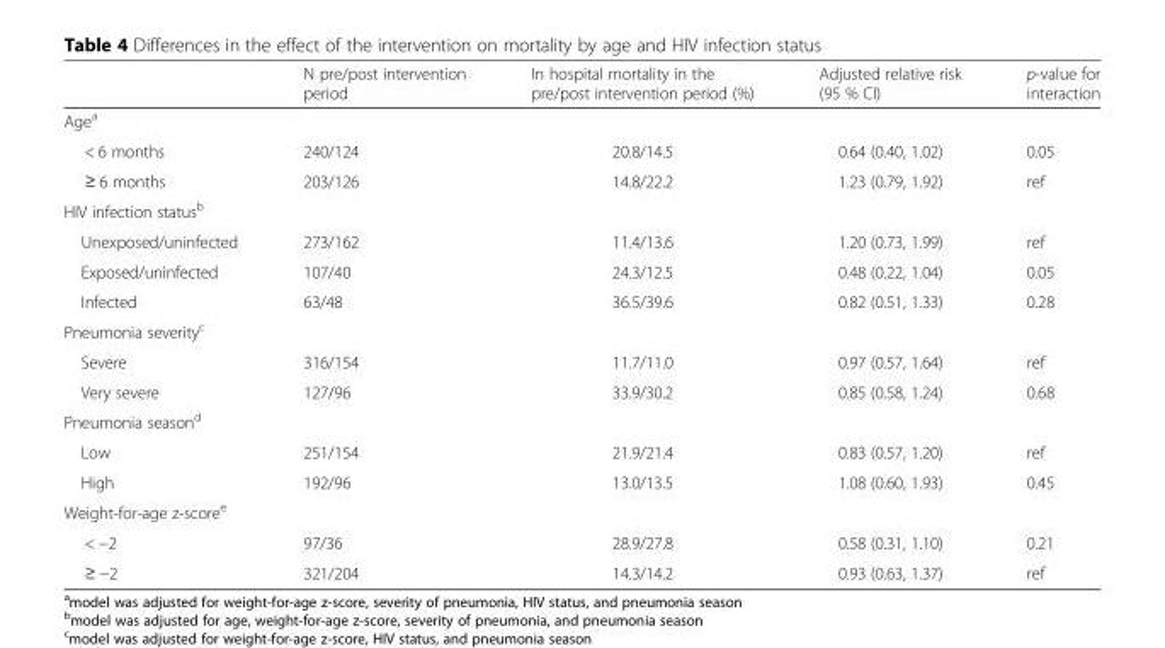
<table><thead><tr><td></td><td>N pre/post intervention period</td><td>In hospital mortality in the pre/post intervention period (%)</td><td>Adjusted relative risk (95 % CI)</td><td>p-value for interaction</td></tr></thead><tbody><tr><td colspan="5">Age<sup>a</sup></td></tr><tr><td>&lt; 6 months</td><td>240/124</td><td>20.8/14.5</td><td>0.64 (0.40, 1.02)</td><td>0.05</td></tr><tr><td>≥ 6 months</td><td>203/126</td><td>14.8/22.2</td><td>1.23 (0.79, 1.92)</td><td>ref</td></tr><tr><td colspan="5">HIV infection status<sup>b</sup></td></tr><tr><td>Unexposed/uninfected</td><td>273/162</td><td>11.4/13.6</td><td>1.20 (0.73, 1.99)</td><td>ref</td></tr><tr><td>Exposed/uninfected</td><td>107/40</td><td>24.3/12.5</td><td>0.48 (0.22, 1.04)</td><td>0.05</td></tr><tr><td>Infected</td><td>63/48</td><td>36.5/39.6</td><td>0.82 (0.51, 1.33)</td><td>0.28</td></tr><tr><td colspan="5">Pneumonia severity<sup>c</sup></td></tr><tr><td>Severe</td><td>316/154</td><td>11.7/11.0</td><td>0.97 (0.57, 1.64)</td><td>ref</td></tr><tr><td>Very severe</td><td>127/96</td><td>33.9/30.2</td><td>0.85 (0.58, 1.24)</td><td>0.68</td></tr><tr><td colspan="5">Pneumonia season<sup>d</sup></td></tr><tr><td>Low</td><td>251/154</td><td>21.9/21.4</td><td>0.83 (0.57, 1.20)</td><td>ref</td></tr><tr><td>High</td><td>192/96</td><td>13.0/13.5</td><td>1.08 (0.60, 1.93)</td><td>0.45</td></tr><tr><td colspan="5">Weight-for-age z-score<sup>e</sup></td></tr><tr><td>&lt; −2</td><td>97/36</td><td>28.9/27.8</td><td>0.58 (0.31, 1.10)</td><td>0.21</td></tr><tr><td>≥ −2</td><td>321/204</td><td>14.3/14.2</td><td>0.93 (0.63, 1.37)</td><td>ref</td></tr></tbody></table>